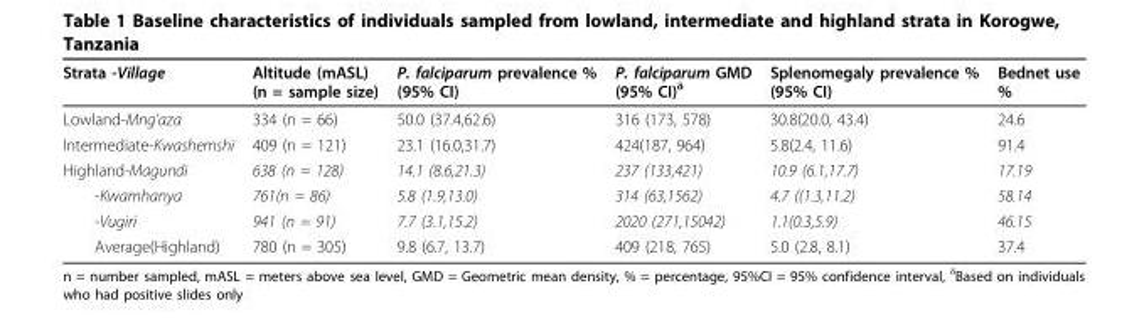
<table><thead><tr><td>Strata -Village</td><td>Altitude (mASL) (n = sample size)</td><td>P. falciparum prevalence % (95% CI)</td><td>P. falciparum GMD (95% CI)<sup>δ</sup></td><td>Splenomegaly prevalence % (95% CI)</td><td>Bednet use %</td></tr></thead><tbody><tr><td>Lowland-Mng’aza</td><td>334 (n = 66)</td><td>50.0 (37.4,62.6)</td><td>316 (173, 578)</td><td>30.8(20.0, 43.4)</td><td>24.6</td></tr><tr><td>Intermediate-Kwashemshi</td><td>409 (n = 121)</td><td>23.1 (16.0,31.7)</td><td>424(187, 964)</td><td>5.8(2.4, 11.6)</td><td>91.4</td></tr><tr><td>Highland-Magundi</td><td>638 (n = 128)</td><td>14.1 (8.6,21.3)</td><td>237 (133,421)</td><td>10.9 (6.1,17.7)</td><td>17.19</td></tr><tr><td>-Kwamhanya</td><td>761(n = 86)</td><td>5.8 (1.9,13.0)</td><td>314 (63,1562)</td><td>4.7 ((1.3,11.2)</td><td>58.14</td></tr><tr><td>-Vugiri</td><td>941 (n = 91)</td><td>7.7 (3.1,15.2)</td><td>2020 (271,15042)</td><td>1.1(0.3,5.9)</td><td>46.15</td></tr><tr><td>Average(Highland)</td><td>780 (n = 305)</td><td>9.8 (6.7, 13.7)</td><td>409 (218, 765)</td><td>5.0 (2.8, 8.1)</td><td>37.4</td></tr></tbody></table>